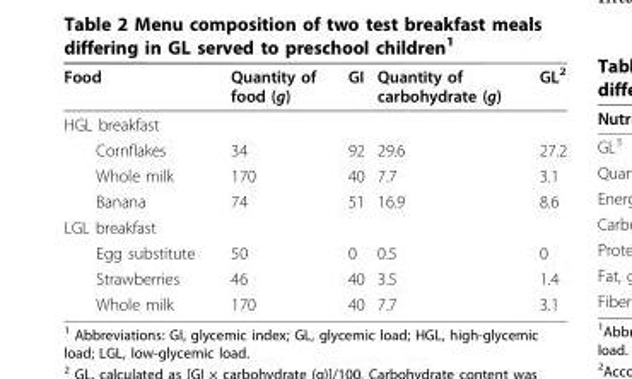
<table><thead><tr><td>Food</td><td>Quantity of food (g)</td><td>GI</td><td>Quantity of carbohydrate (g)</td><td>GL<sup>2</sup></td></tr></thead><tbody><tr><td colspan="5">HGL breakfast</td></tr><tr><td>Cornflakes</td><td>34</td><td>92</td><td>29.6</td><td>27.2</td></tr><tr><td>Whole milk</td><td>170</td><td>40</td><td>7.7</td><td>3.1</td></tr><tr><td>Banana</td><td>74</td><td>51</td><td>16.9</td><td>8.6</td></tr><tr><td colspan="5">LGL breakfast</td></tr><tr><td>Egg substitute</td><td>50</td><td>0</td><td>0.5</td><td>0</td></tr><tr><td>Strawberries</td><td>46</td><td>40</td><td>3.5</td><td>1.4</td></tr><tr><td>Whole milk</td><td>170</td><td>40</td><td>7.7</td><td>3.1</td></tr></tbody></table>